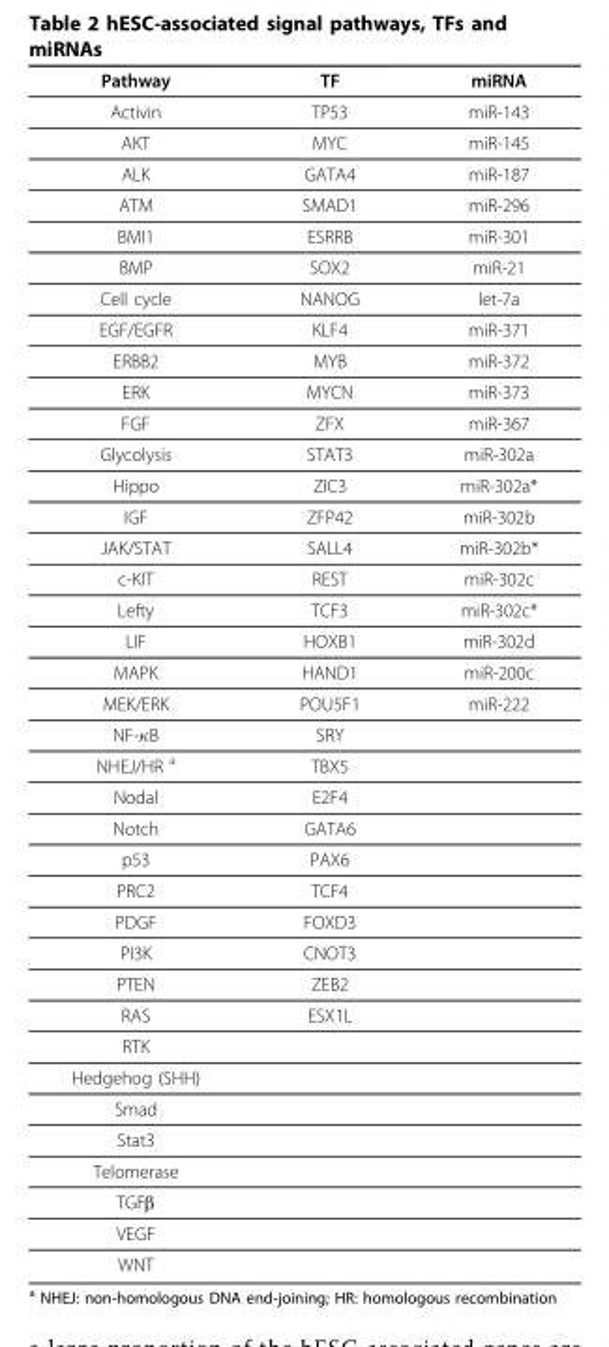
<table><thead><tr><td>Pathway</td><td>TF</td><td>miRNA</td></tr></thead><tbody><tr><td>Activin</td><td>TP53</td><td>miR-143</td></tr><tr><td>AKT</td><td>MYC</td><td>miR-145</td></tr><tr><td>ALK</td><td>GATA4</td><td>miR-187</td></tr><tr><td>ATM</td><td>SMAD1</td><td>miR-296</td></tr><tr><td>BMI1</td><td>ESRRB</td><td>miR-301</td></tr><tr><td>BMP</td><td>SOX2</td><td>miR-21</td></tr><tr><td>Cell cycle</td><td>NANOG</td><td>let-7a</td></tr><tr><td>EGF/EGFR</td><td>KLF4</td><td>miR-371</td></tr><tr><td>ERBB2</td><td>MYB</td><td>miR-372</td></tr><tr><td>ERK</td><td>MYCN</td><td>miR-373</td></tr><tr><td>FGF</td><td>ZFX</td><td>miR-367</td></tr><tr><td>Glycolysis</td><td>STAT3</td><td>miR-302a</td></tr><tr><td>Hippo</td><td>ZIC3</td><td>miR-302a*</td></tr><tr><td>IGF</td><td>ZFP42</td><td>miR-302b</td></tr><tr><td>JAK/STAT</td><td>SALL4</td><td>miR-302b*</td></tr><tr><td>c-KIT</td><td>REST</td><td>miR-302c</td></tr><tr><td>Lefty</td><td>TCF3</td><td>miR-302c*</td></tr><tr><td>LIF</td><td>HOXB1</td><td>miR-302d</td></tr><tr><td>MAPK</td><td>HAND1</td><td>miR-200c</td></tr><tr><td>MEK/ERK</td><td>POU5F1</td><td>miR-222</td></tr><tr><td>NF-κB</td><td>SRY</td><td></td></tr><tr><td>NHEJ/HR <sup>a</sup></td><td>TBX5</td><td></td></tr><tr><td>Nodal</td><td>E2F4</td><td></td></tr><tr><td>Notch</td><td>GATA6</td><td></td></tr><tr><td>p53</td><td>PAX6</td><td></td></tr><tr><td>PRC2</td><td>TCF4</td><td></td></tr><tr><td>PDGF</td><td>FOXD3</td><td></td></tr><tr><td>PI3K</td><td>CNOT3</td><td></td></tr><tr><td>PTEN</td><td>ZEB2</td><td></td></tr><tr><td>RAS</td><td>ESX1L</td><td></td></tr><tr><td colspan="3">RTK</td></tr><tr><td colspan="3">Hedgehog (SHH)</td></tr><tr><td colspan="3">Smad</td></tr><tr><td colspan="3">Stat3</td></tr><tr><td colspan="3">Telomerase</td></tr><tr><td colspan="3">TGFβ</td></tr><tr><td colspan="3">VEGF</td></tr><tr><td>WNT</td><td></td><td></td></tr></tbody></table>